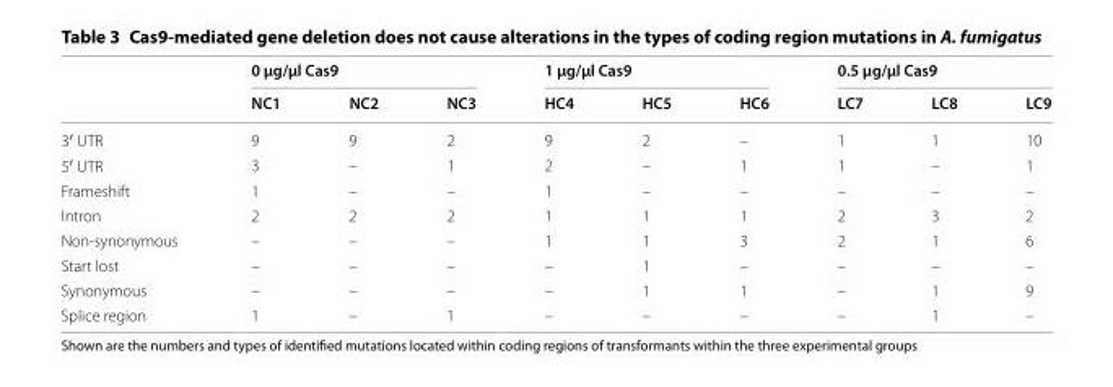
<table><thead><tr><td rowspan="2"></td><td colspan="3">0 µg/µl Cas9</td><td colspan="3">1 µg/µl Cas9</td><td colspan="3">0.5 µg/µl Cas9</td></tr><tr><td>NC1</td><td>NC2</td><td>NC3</td><td>HC4</td><td>HC5</td><td>HC6</td><td>LC7</td><td>LC8</td><td>LC9</td></tr></thead><tbody><tr><td>3′ UTR</td><td>9</td><td>9</td><td>2</td><td>9</td><td>2</td><td>–</td><td>1</td><td>1</td><td>10</td></tr><tr><td>5′ UTR</td><td>3</td><td>–</td><td>1</td><td>2</td><td>–</td><td>1</td><td>1</td><td>–</td><td>1</td></tr><tr><td>Frameshift</td><td>1</td><td>–</td><td>–</td><td>1</td><td>–</td><td>–</td><td>–</td><td>–</td><td>–</td></tr><tr><td>Intron</td><td>2</td><td>2</td><td>2</td><td>1</td><td>1</td><td>1</td><td>2</td><td>3</td><td>2</td></tr><tr><td>Non‑synonymous</td><td>–</td><td>–</td><td>–</td><td>1</td><td>1</td><td>3</td><td>2</td><td>1</td><td>6</td></tr><tr><td>Start lost</td><td>–</td><td>–</td><td>–</td><td>–</td><td>1</td><td>–</td><td>–</td><td>–</td><td>–</td></tr><tr><td>Synonymous</td><td>–</td><td>–</td><td>–</td><td>–</td><td>1</td><td>1</td><td>–</td><td>1</td><td>9</td></tr><tr><td>Splice region</td><td>1</td><td>–</td><td>1</td><td>–</td><td>–</td><td>–</td><td>–</td><td>1</td><td>–</td></tr></tbody></table>